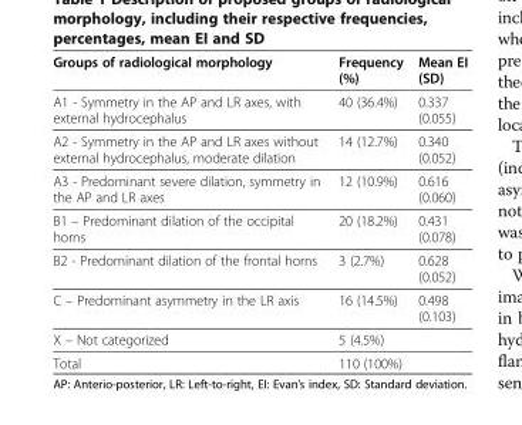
<table><thead><tr><td>Groups of radiological morphology</td><td>Frequency (%)</td><td>Mean EI (SD)</td></tr></thead><tbody><tr><td>A1 - Symmetry in the AP and LR axes, with external hydrocephalus</td><td>40 (36.4%)</td><td>0.337 (0.055)</td></tr><tr><td>A2 - Symmetry in the AP and LR axes without external hydrocephalus, moderate dilation</td><td>14 (12.7%)</td><td>0.340 (0.052)</td></tr><tr><td>A3 - Predominant severe dilation, symmetry in the AP and LR axes</td><td>12 (10.9%)</td><td>0.616 (0.060)</td></tr><tr><td>B1 – Predominant dilation of the occipital horns</td><td>20 (18.2%)</td><td>0.431 (0.078)</td></tr><tr><td>B2 - Predominant dilation of the frontal horns</td><td>3 (2.7%)</td><td>0.628 (0.052)</td></tr><tr><td>C – Predominant asymmetry in the LR axis</td><td>16 (14.5%)</td><td>0.498 (0.103)</td></tr><tr><td>X – Not categorized</td><td>5 (4.5%)</td><td></td></tr><tr><td>Total</td><td>110 (100%)</td><td></td></tr></tbody></table>